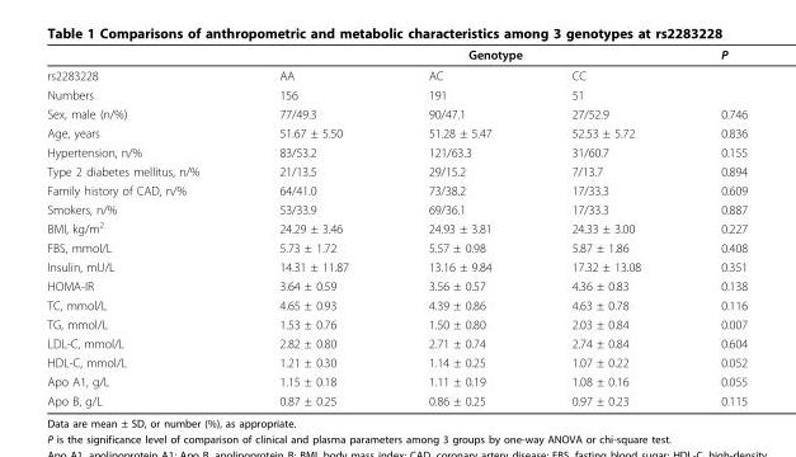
<table><thead><tr><td rowspan="2">rs2283228</td><td colspan="3">Genotype</td><td rowspan="2">P</td></tr><tr><td>AA</td><td>AC</td><td>CC</td></tr></thead><tbody><tr><td>Numbers</td><td>156</td><td>191</td><td>51</td><td></td></tr><tr><td>Sex, male (n/%)</td><td>77/49.3</td><td>90/47.1</td><td>27/52.9</td><td>0.746</td></tr><tr><td>Age, years</td><td>51.67 ± 5.50</td><td>51.28 ± 5.47</td><td>52.53 ± 5.72</td><td>0.836</td></tr><tr><td>Hypertension, n/%</td><td>83/53.2</td><td>121/63.3</td><td>31/60.7</td><td>0.155</td></tr><tr><td>Type 2 diabetes mellitus, n/%</td><td>21/13.5</td><td>29/15.2</td><td>7/13.7</td><td>0.894</td></tr><tr><td>Family history of CAD, n/%</td><td>64/41.0</td><td>73/38.2</td><td>17/33.3</td><td>0.609</td></tr><tr><td>Smokers, n/%</td><td>53/33.9</td><td>69/36.1</td><td>17/33.3</td><td>0.887</td></tr><tr><td>BMI, kg/m<sup>2</sup></td><td>24.29 ± 3.46</td><td>24.93 ± 3.81</td><td>24.33 ± 3.00</td><td>0.227</td></tr><tr><td>FBS, mmol/L</td><td>5.73 ± 1.72</td><td>5.57 ± 0.98</td><td>5.87 ± 1.86</td><td>0.408</td></tr><tr><td>Insulin, mU/L</td><td>14.31 ± 11.87</td><td>13.16 ± 9.84</td><td>17.32 ± 13.08</td><td>0.351</td></tr><tr><td>HOMA-IR</td><td>3.64 ± 0.59</td><td>3.56 ± 0.57</td><td>4.36 ± 0.83</td><td>0.138</td></tr><tr><td>TC, mmol/L</td><td>4.65 ± 0.93</td><td>4.39 ± 0.86</td><td>4.63 ± 0.78</td><td>0.116</td></tr><tr><td>TG, mmol/L</td><td>1.53 ± 0.76</td><td>1.50 ± 0.80</td><td>2.03 ± 0.84</td><td>0.007</td></tr><tr><td>LDL-C, mmol/L</td><td>2.82 ± 0.80</td><td>2.71 ± 0.74</td><td>2.74 ± 0.84</td><td>0.604</td></tr><tr><td>HDL-C, mmol/L</td><td>1.21 ± 0.30</td><td>1.14 ± 0.25</td><td>1.07 ± 0.22</td><td>0.052</td></tr><tr><td>Apo A1, g/L</td><td>1.15 ± 0.18</td><td>1.11 ± 0.19</td><td>1.08 ± 0.16</td><td>0.055</td></tr><tr><td>Apo B, g/L</td><td>0.87 ± 0.25</td><td>0.86 ± 0.25</td><td>0.97 ± 0.23</td><td>0.115</td></tr></tbody></table>